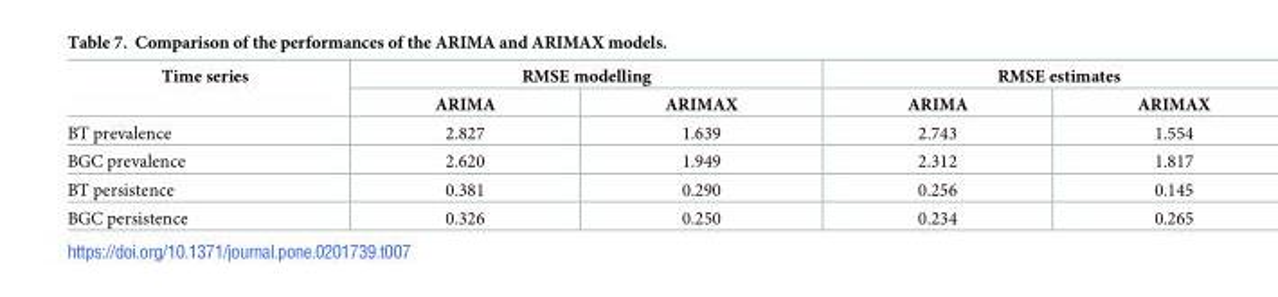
<table><thead><tr><td rowspan="2">Time series</td><td colspan="2">RMSE modelling</td><td colspan="2">RMSE estimates</td></tr><tr><td>ARIMA</td><td>ARIMAX</td><td>ARIMA</td><td>ARIMAX</td></tr></thead><tbody><tr><td>BT prevalence</td><td>2.827</td><td>1.639</td><td>2.743</td><td>1.554</td></tr><tr><td>BGC prevalence</td><td>2.620</td><td>1.949</td><td>2.312</td><td>1.817</td></tr><tr><td>BT persistence</td><td>0.381</td><td>0.290</td><td>0.256</td><td>0.145</td></tr><tr><td>BGC persistence</td><td>0.326</td><td>0.250</td><td>0.234</td><td>0.265</td></tr></tbody></table>